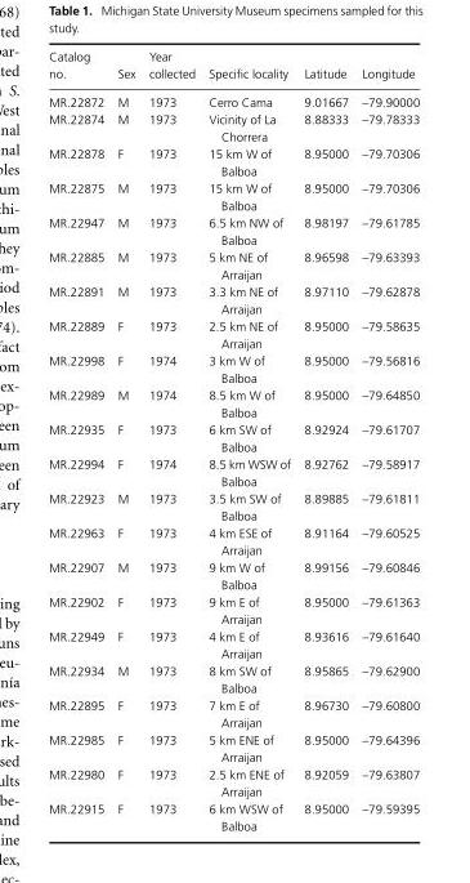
<table><thead><tr><td>Catalog no.</td><td>Sex</td><td>Year collected</td><td>Specific locality</td><td>Latitude</td><td>Longitude</td></tr></thead><tbody><tr><td>MR.22872</td><td>M</td><td>1973</td><td>Cerro Cama</td><td>9.01667</td><td>–79.90000</td></tr><tr><td>MR.22874</td><td>M</td><td>1973</td><td>Vicinity of La Chorrera</td><td>8.88333</td><td>–79.78333</td></tr><tr><td>MR.22878</td><td>F</td><td>1973</td><td>15 km W of Balboa</td><td>8.95000</td><td>–79.70306</td></tr><tr><td>MR.22875</td><td>M</td><td>1973</td><td>15 km W of Balboa</td><td>8.95000</td><td>–79.70306</td></tr><tr><td>MR.22947</td><td>M</td><td>1973</td><td>6.5 km NW of Balboa</td><td>8.98197</td><td>–79.61785</td></tr><tr><td>MR.22885</td><td>M</td><td>1973</td><td>5 km NE of Arraijan</td><td>8.96598</td><td>–79.63393</td></tr><tr><td>MR.22891</td><td>M</td><td>1973</td><td>3.3 km NE of Arraijan</td><td>8.97110</td><td>–79.62878</td></tr><tr><td>MR.22889</td><td>F</td><td>1973</td><td>2.5 km NE of Arraijan</td><td>8.95000</td><td>–79.58635</td></tr><tr><td>MR.22998</td><td>F</td><td>1974</td><td>3 km W of Balboa</td><td>8.95000</td><td>–79.56816</td></tr><tr><td>MR.22989</td><td>M</td><td>1974</td><td>8.5 km W of Balboa</td><td>8.95000</td><td>–79.64850</td></tr><tr><td>MR.22935</td><td>F</td><td>1973</td><td>6 km SW of Balboa</td><td>8.92924</td><td>–79.61707</td></tr><tr><td>MR.22994</td><td>F</td><td>1974</td><td>8.5 km WSW of Balboa</td><td>8.92762</td><td>–79.58917</td></tr><tr><td>MR.22923</td><td>M</td><td>1973</td><td>3.5 km SW of Balboa</td><td>8.89885</td><td>–79.61811</td></tr><tr><td>MR.22963</td><td>F</td><td>1973</td><td>4 km ESE of Arraijan</td><td>8.91164</td><td>–79.60525</td></tr><tr><td>MR.22907</td><td>M</td><td>1973</td><td>9 km W of Balboa</td><td>8.99156</td><td>–79.60846</td></tr><tr><td>MR.22902</td><td>F</td><td>1973</td><td>9 km E of Arraijan</td><td>8.95000</td><td>–79.61363</td></tr><tr><td>MR.22949</td><td>F</td><td>1973</td><td>4 km E of Arraijan</td><td>8.93616</td><td>–79.61640</td></tr><tr><td>MR.22934</td><td>M</td><td>1973</td><td>8 km SW of Balboa</td><td>8.95865</td><td>–79.62900</td></tr><tr><td>MR.22895</td><td>F</td><td>1973</td><td>7 km E of Arraijan</td><td>8.96730</td><td>–79.60800</td></tr><tr><td>MR.22985</td><td>F</td><td>1973</td><td>5 km ENE of Arraijan</td><td>8.95000</td><td>–79.64396</td></tr><tr><td>MR.22980</td><td>F</td><td>1973</td><td>2.5 km ENE of Arraijan</td><td>8.92059</td><td>–79.63807</td></tr><tr><td>MR.22915</td><td>F</td><td>1973</td><td>6 km WSW of Balboa</td><td>8.95000</td><td>–79.59395</td></tr></tbody></table>